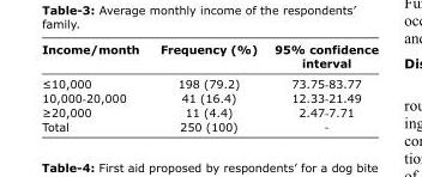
<table><thead><tr><td>Income/month</td><td>Frequency (%)</td><td>95% confidence interval</td></tr></thead><tbody><tr><td>≤10,000</td><td>198 (79.2)</td><td>73.75-83.77</td></tr><tr><td>10,000-20,000</td><td>41 (16.4)</td><td>12.33-21.49</td></tr><tr><td>≥20,000</td><td>11 (4.4)</td><td>2.47-7.71</td></tr><tr><td>Total</td><td>250 (100)</td><td>-</td></tr></tbody></table>